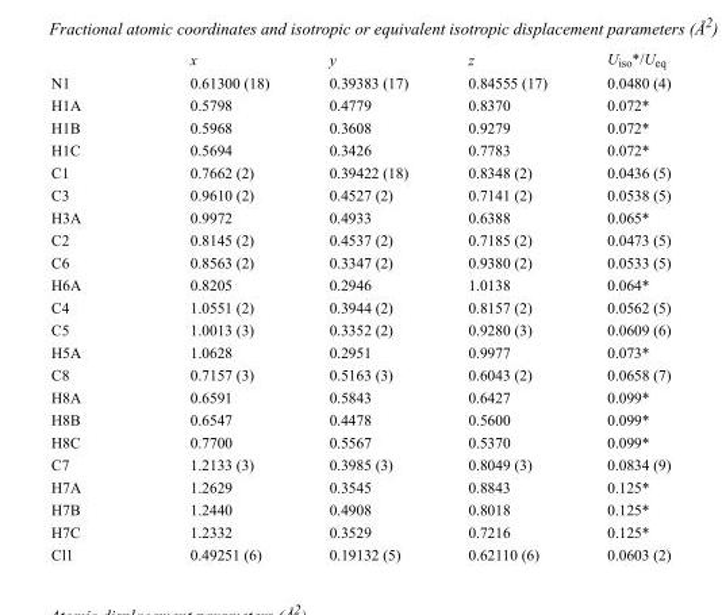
<table><thead><tr><td></td><td>x</td><td>y</td><td>z</td><td>U<sub>iso</sub>*/U<sub>eq</sub></td></tr></thead><tbody><tr><td>N1</td><td>0.61300 (18)</td><td>0.39383 (17)</td><td>0.84555 (17)</td><td>0.0480 (4)</td></tr><tr><td>H1A</td><td>0.5798</td><td>0.4779</td><td>0.8370</td><td>0.072*</td></tr><tr><td>H1B</td><td>0.5968</td><td>0.3608</td><td>0.9279</td><td>0.072*</td></tr><tr><td>H1C</td><td>0.5694</td><td>0.3426</td><td>0.7783</td><td>0.072*</td></tr><tr><td>C1</td><td>0.7662 (2)</td><td>0.39422 (18)</td><td>0.8348 (2)</td><td>0.0436 (5)</td></tr><tr><td>C3</td><td>0.9610 (2)</td><td>0.4527 (2)</td><td>0.7141 (2)</td><td>0.0538 (5)</td></tr><tr><td>H3A</td><td>0.9972</td><td>0.4933</td><td>0.6388</td><td>0.065*</td></tr><tr><td>C2</td><td>0.8145 (2)</td><td>0.4537 (2)</td><td>0.7185 (2)</td><td>0.0473 (5)</td></tr><tr><td>C6</td><td>0.8563 (2)</td><td>0.3347 (2)</td><td>0.9380 (2)</td><td>0.0533 (5)</td></tr><tr><td>H6A</td><td>0.8205</td><td>0.2946</td><td>1.0138</td><td>0.064*</td></tr><tr><td>C4</td><td>1.0551 (2)</td><td>0.3944 (2)</td><td>0.8157 (2)</td><td>0.0562 (5)</td></tr><tr><td>C5</td><td>1.0013 (3)</td><td>0.3352 (2)</td><td>0.9280 (3)</td><td>0.0609 (6)</td></tr><tr><td>H5A</td><td>1.0628</td><td>0.2951</td><td>0.9977</td><td>0.073*</td></tr><tr><td>C8</td><td>0.7157 (3)</td><td>0.5163 (3)</td><td>0.6043 (2)</td><td>0.0658 (7)</td></tr><tr><td>H8A</td><td>0.6591</td><td>0.5843</td><td>0.6427</td><td>0.099*</td></tr><tr><td>H8B</td><td>0.6547</td><td>0.4478</td><td>0.5600</td><td>0.099*</td></tr><tr><td>H8C</td><td>0.7700</td><td>0.5567</td><td>0.5370</td><td>0.099*</td></tr><tr><td>C7</td><td>1.2133 (3)</td><td>0.3985 (3)</td><td>0.8049 (3)</td><td>0.0834 (9)</td></tr><tr><td>H7A</td><td>1.2629</td><td>0.3545</td><td>0.8843</td><td>0.125*</td></tr><tr><td>H7B</td><td>1.2440</td><td>0.4908</td><td>0.8018</td><td>0.125*</td></tr><tr><td>H7C</td><td>1.2332</td><td>0.3529</td><td>0.7216</td><td>0.125*</td></tr><tr><td>Cl1</td><td>0.49251 (6)</td><td>0.19132 (5)</td><td>0.62110 (6)</td><td>0.0603 (2)</td></tr></tbody></table>